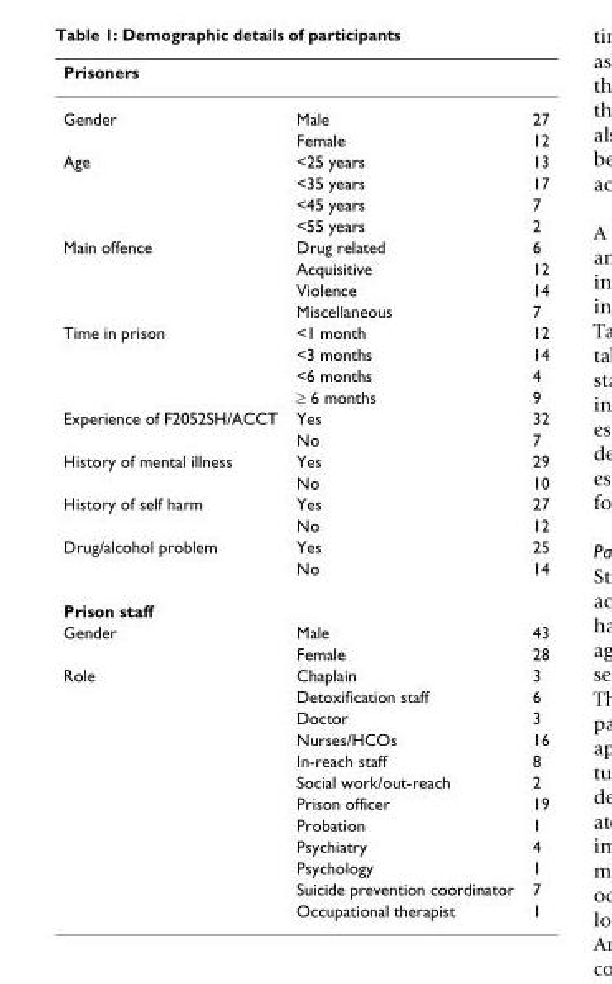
<table><thead><tr><td>Prisoners</td><td></td><td></td></tr></thead><tbody><tr><td rowspan="2">Gender</td><td>Male</td><td>27</td></tr><tr><td>Female</td><td>12</td></tr><tr><td rowspan="4">Age</td><td>&lt;25 years</td><td>13</td></tr><tr><td>&lt;35 years</td><td>17</td></tr><tr><td>&lt;45 years</td><td>7</td></tr><tr><td>&lt;55 years</td><td>2</td></tr><tr><td rowspan="4">Main offence</td><td>Drug related</td><td>6</td></tr><tr><td>Acquisitive</td><td>12</td></tr><tr><td>Violence</td><td>14</td></tr><tr><td>Miscellaneous</td><td>7</td></tr><tr><td rowspan="4">Time in prison</td><td>&lt;1 month</td><td>12</td></tr><tr><td>&lt;3 months</td><td>14</td></tr><tr><td>&lt;6 months</td><td>4</td></tr><tr><td>≥ 6 months</td><td>9</td></tr><tr><td rowspan="2">Experience of F2052SH/ACCT</td><td>Yes</td><td>32</td></tr><tr><td>No</td><td>7</td></tr><tr><td rowspan="2">History of mental illness</td><td>Yes</td><td>29</td></tr><tr><td>No</td><td>10</td></tr><tr><td rowspan="2">History of self harm</td><td>Yes</td><td>27</td></tr><tr><td>No</td><td>12</td></tr><tr><td rowspan="2">Drug/alcohol problem</td><td>Yes</td><td>25</td></tr><tr><td>No</td><td>14</td></tr><tr><td colspan="3">Prison staff</td></tr><tr><td rowspan="2">Gender</td><td>Male</td><td>43</td></tr><tr><td>Female</td><td>28</td></tr><tr><td rowspan="12">Role</td><td>Chaplain</td><td>3</td></tr><tr><td>Detoxification staff</td><td>6</td></tr><tr><td>Doctor</td><td>3</td></tr><tr><td>Nurses/HCOs</td><td>16</td></tr><tr><td>In-reach staff</td><td>8</td></tr><tr><td>Social work/out-reach</td><td>2</td></tr><tr><td>Prison officer</td><td>19</td></tr><tr><td>Probation</td><td>1</td></tr><tr><td>Psychiatry</td><td>4</td></tr><tr><td>Psychology</td><td>1</td></tr><tr><td>Suicide prevention coordinator</td><td>7</td></tr><tr><td>Occupational therapist</td><td>1</td></tr></tbody></table>